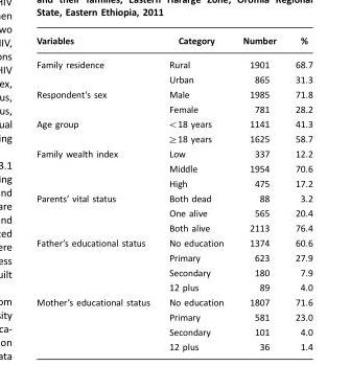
<table><thead><tr><td>Variables</td><td>Category</td><td>Number</td><td>%</td></tr></thead><tbody><tr><td rowspan="2">Family residence</td><td>Rural</td><td>1901</td><td>68.7</td></tr><tr><td>Urban</td><td>865</td><td>31.3</td></tr><tr><td rowspan="2">Respondent’s sex</td><td>Male</td><td>1985</td><td>71.8</td></tr><tr><td>Female</td><td>781</td><td>28.2</td></tr><tr><td rowspan="2">Age group</td><td>&lt;18 years</td><td>1141</td><td>41.3</td></tr><tr><td>≥18 years</td><td>1625</td><td>58.7</td></tr><tr><td rowspan="3">Family wealth index</td><td>Low</td><td>337</td><td>12.2</td></tr><tr><td>Middle</td><td>1954</td><td>70.6</td></tr><tr><td>High</td><td>475</td><td>17.2</td></tr><tr><td rowspan="3">Parents’ vital status</td><td>Both dead</td><td>88</td><td>3.2</td></tr><tr><td>One alive</td><td>565</td><td>20.4</td></tr><tr><td>Both alive</td><td>2113</td><td>76.4</td></tr><tr><td rowspan="4">Father’s educational status</td><td>No education</td><td>1374</td><td>60.6</td></tr><tr><td>Primary</td><td>623</td><td>27.9</td></tr><tr><td>Secondary</td><td>180</td><td>7.9</td></tr><tr><td>12 plus</td><td>89</td><td>4.0</td></tr><tr><td rowspan="4">Mother’s educational status</td><td>No education</td><td>1807</td><td>71.6</td></tr><tr><td>Primary</td><td>581</td><td>23.0</td></tr><tr><td>Secondary</td><td>101</td><td>4.0</td></tr><tr><td>12 plus</td><td>36</td><td>1.4</td></tr></tbody></table>